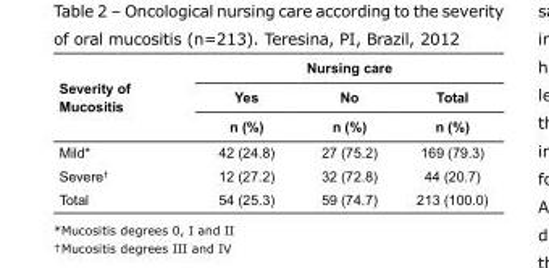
<table><thead><tr><td rowspan="3">Severity of Mucositis</td><td colspan="3">Nursing care</td></tr><tr><td rowspan="2">Yes n (%)</td><td rowspan="2">No n (%)</td><td rowspan="2">Total n (%)</td></tr><tr></tr></thead><tbody><tr><td>Mild*</td><td>42 (24.8)</td><td>27 (75.2)</td><td>169 (79.3)</td></tr><tr><td>Severe<sup>†</sup></td><td>12 (27.2)</td><td>32 (72.8)</td><td>44 (20.7)</td></tr><tr><td>Total</td><td>54 (25.3)</td><td>59 (74.7)</td><td>213 (100.0)</td></tr></tbody></table>